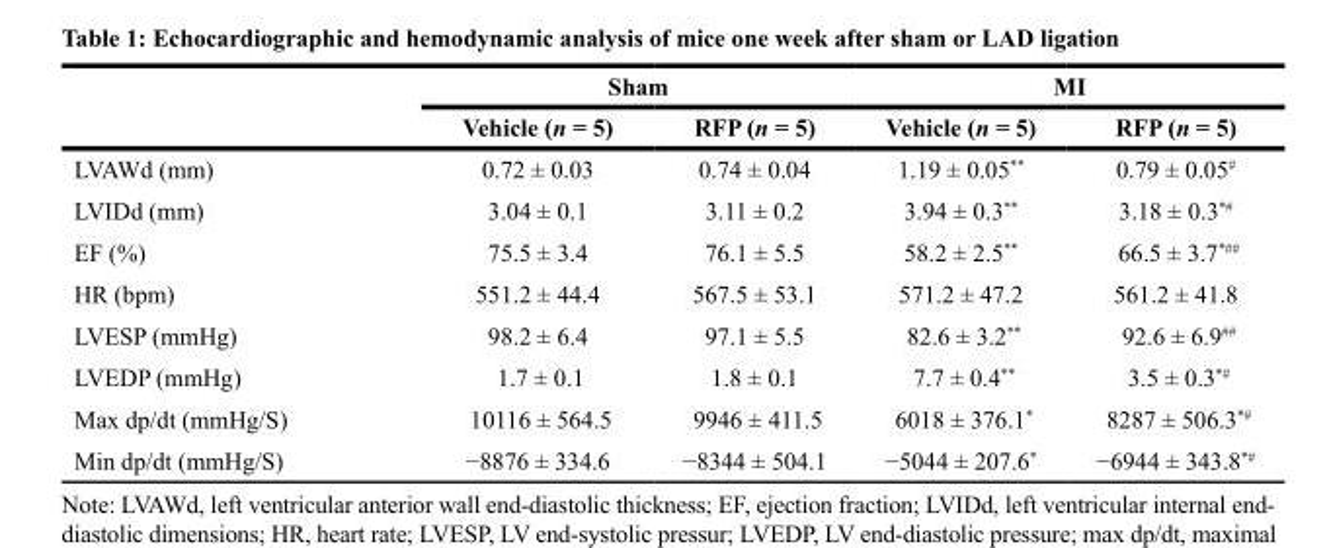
<table><thead><tr><td rowspan="2"></td><td colspan="2">Sham</td><td colspan="2">MI</td></tr><tr><td>Vehicle (n = 5)</td><td>RFP (n = 5)</td><td>Vehicle (n = 5)</td><td>RFP (n = 5)</td></tr></thead><tbody><tr><td>LVAWd (mm)</td><td>0.72 ± 0.03</td><td>0.74 ± 0.04</td><td>1.19 ± 0.05**</td><td>0.79 ± 0.05<sup>#</sup></td></tr><tr><td>LVIDd (mm)</td><td>3.04 ± 0.1</td><td>3.11 ± 0.2</td><td>3.94 ± 0.3**</td><td>3.18 ± 0.3<sup>*#</sup></td></tr><tr><td>EF (%)</td><td>75.5 ± 3.4</td><td>76.1 ± 5.5</td><td>58.2 ± 2.5**</td><td>66.5 ± 3.7<sup>*##</sup></td></tr><tr><td>HR (bpm)</td><td>551.2 ± 44.4</td><td>567.5 ± 53.1</td><td>571.2 ± 47.2</td><td>561.2 ± 41.8</td></tr><tr><td>LVESP (mmHg)</td><td>98.2 ± 6.4</td><td>97.1 ± 5.5</td><td>82.6 ± 3.2**</td><td>92.6 ± 6.9<sup>##</sup></td></tr><tr><td>LVEDP (mmHg)</td><td>1.7 ± 0.1</td><td>1.8 ± 0.1</td><td>7.7 ± 0.4**</td><td>3.5 ± 0.3<sup>*#</sup></td></tr><tr><td>Max dp/dt (mmHg/S)</td><td>10116 ± 564.5</td><td>9946 ± 411.5</td><td>6018 ± 376.1*</td><td>8287 ± 506.3<sup>*#</sup></td></tr><tr><td>Min dp/dt (mmHg/S)</td><td>−8876 ± 334.6</td><td>−8344 ± 504.1</td><td>−5044 ± 207.6*</td><td>−6944 ± 343.8<sup>*#</sup></td></tr></tbody></table>